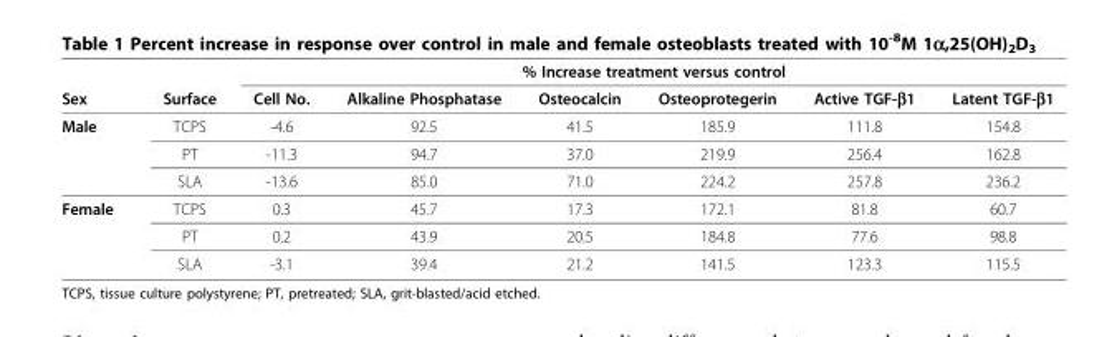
<table><thead><tr><td rowspan="2">Sex</td><td rowspan="2">Surface</td><td colspan="6">% Increase treatment versus control</td></tr><tr><td>Cell No.</td><td>Alkaline Phosphatase</td><td>Osteocalcin</td><td>Osteoprotegerin</td><td>Active TGF-β1</td><td>Latent TGF-β1</td></tr></thead><tbody><tr><td rowspan="3">Male</td><td>TCPS</td><td>-4.6</td><td>92.5</td><td>41.5</td><td>185.9</td><td>111.8</td><td>154.8</td></tr><tr><td>PT</td><td>-11.3</td><td>94.7</td><td>37.0</td><td>219.9</td><td>256.4</td><td>162.8</td></tr><tr><td>SLA</td><td>-13.6</td><td>85.0</td><td>71.0</td><td>224.2</td><td>257.8</td><td>236.2</td></tr><tr><td rowspan="3">Female</td><td>TCPS</td><td>0.3</td><td>45.7</td><td>17.3</td><td>172.1</td><td>81.8</td><td>60.7</td></tr><tr><td>PT</td><td>0.2</td><td>43.9</td><td>20.5</td><td>184.8</td><td>77.6</td><td>98.8</td></tr><tr><td>SLA</td><td>-3.1</td><td>39.4</td><td>21.2</td><td>141.5</td><td>123.3</td><td>115.5</td></tr></tbody></table>